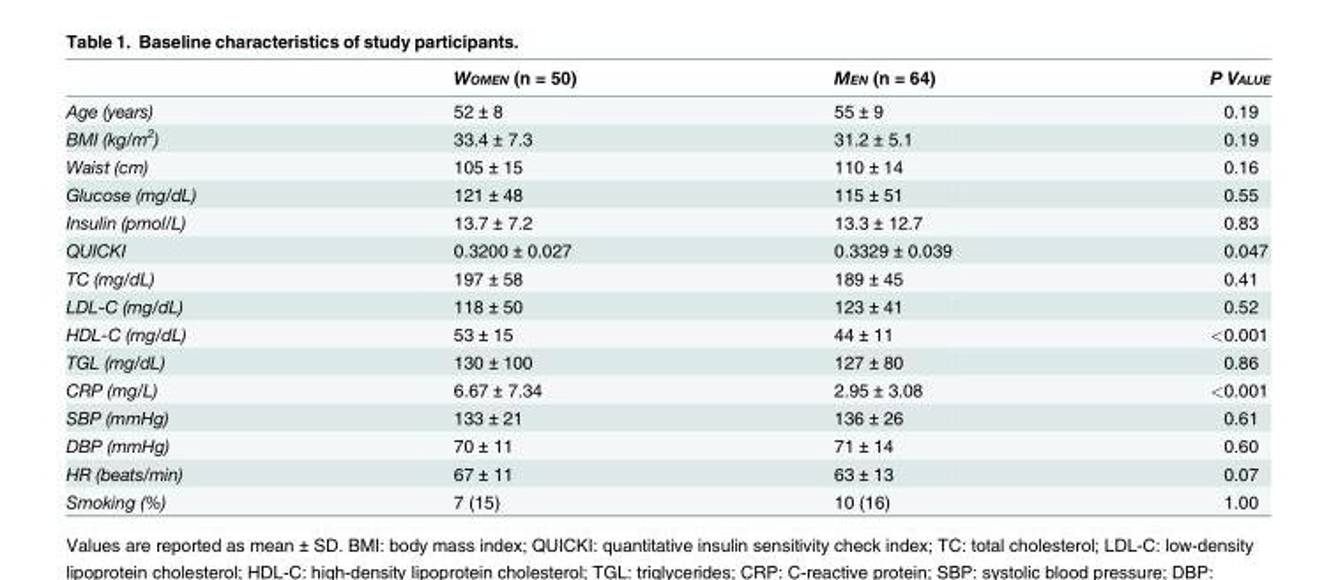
<table><thead><tr><td></td><td>WOMEN (n = 50)</td><td>MEN (n = 64)</td><td>P VALUE</td></tr></thead><tbody><tr><td>Age (years)</td><td>52 ± 8</td><td>55 ± 9</td><td>0.19</td></tr><tr><td>BMI (kg/m<sup>2</sup>)</td><td>33.4 ± 7.3</td><td>31.2 ± 5.1</td><td>0.19</td></tr><tr><td>Waist (cm)</td><td>105 ± 15</td><td>110 ± 14</td><td>0.16</td></tr><tr><td>Glucose (mg/dL)</td><td>121 ± 48</td><td>115 ± 51</td><td>0.55</td></tr><tr><td>Insulin (pmol/L)</td><td>13.7 ± 7.2</td><td>13.3 ± 12.7</td><td>0.83</td></tr><tr><td>QUICKI</td><td>0.3200 ± 0.027</td><td>0.3329 ± 0.039</td><td>0.047</td></tr><tr><td>TC (mg/dL)</td><td>197 ± 58</td><td>189 ± 45</td><td>0.41</td></tr><tr><td>LDL-C (mg/dL)</td><td>118 ± 50</td><td>123 ± 41</td><td>0.52</td></tr><tr><td>HDL-C (mg/dL)</td><td>53 ± 15</td><td>44 ± 11</td><td>&lt;0.001</td></tr><tr><td>TGL (mg/dL)</td><td>130 ± 100</td><td>127 ± 80</td><td>0.86</td></tr><tr><td>CRP (mg/L)</td><td>6.67 ± 7.34</td><td>2.95 ± 3.08</td><td>&lt;0.001</td></tr><tr><td>SBP (mmHg)</td><td>133 ± 21</td><td>136 ± 26</td><td>0.61</td></tr><tr><td>DBP (mmHg)</td><td>70 ± 11</td><td>71 ± 14</td><td>0.60</td></tr><tr><td>HR (beats/min)</td><td>67 ± 11</td><td>63 ± 13</td><td>0.07</td></tr><tr><td>Smoking (%)</td><td>7 (15)</td><td>10 (16)</td><td>1.00</td></tr></tbody></table>